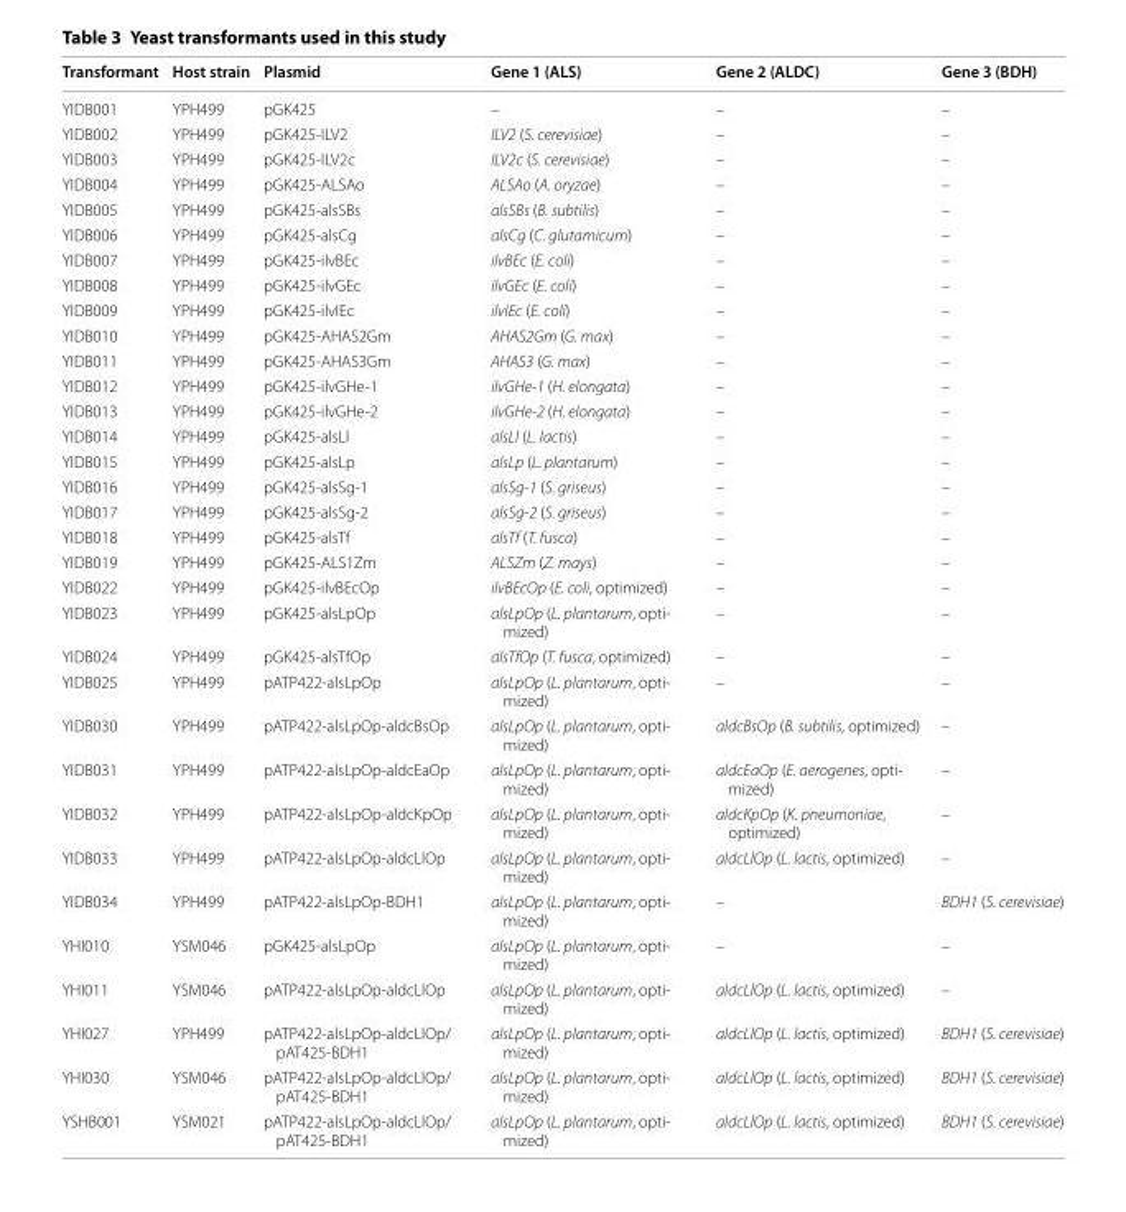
<table><thead><tr><td>Transformant</td><td>Host strain</td><td>Plasmid</td><td>Gene 1 (ALS)</td><td>Gene 2 (ALDC)</td><td>Gene 3 (BDH)</td></tr></thead><tbody><tr><td>YIDB001</td><td>YPH499</td><td>pGK425</td><td>–</td><td>–</td><td>–</td></tr><tr><td>YIDB002</td><td>YPH499</td><td>pGK425-ILV2</td><td>ILV2 (S. cerevisiae)</td><td>–</td><td>–</td></tr><tr><td>YIDB003</td><td>YPH499</td><td>pGK425-ILV2c</td><td>ILV2c (S. cerevisiae)</td><td>–</td><td>–</td></tr><tr><td>YIDB004</td><td>YPH499</td><td>pGK425-ALSAo</td><td>ALSAo (A. oryzae)</td><td>–</td><td>–</td></tr><tr><td>YIDB005</td><td>YPH499</td><td>pGK425-alsSBs</td><td>alsSBs (B. subtilis)</td><td>–</td><td>–</td></tr><tr><td>YIDB006</td><td>YPH499</td><td>pGK425-alsCg</td><td>alsCg (C. glutamicum)</td><td>–</td><td>–</td></tr><tr><td>YIDB007</td><td>YPH499</td><td>pGK425-ilvBEc</td><td>ilvBEc (E. coli)</td><td>–</td><td>–</td></tr><tr><td>YIDB008</td><td>YPH499</td><td>pGK425-ilvGEc</td><td>ilvGEc (E. coli)</td><td>–</td><td>–</td></tr><tr><td>YIDB009</td><td>YPH499</td><td>pGK425-ilvIEc</td><td>ilvIEc (E. coli)</td><td>–</td><td>–</td></tr><tr><td>YIDB010</td><td>YPH499</td><td>pGK425-AHAS2Gm</td><td>AHAS2Gm (G. max)</td><td>–</td><td>–</td></tr><tr><td>YIDB011</td><td>YPH499</td><td>pGK425-AHAS3Gm</td><td>AHAS3 (G. max)</td><td>–</td><td>–</td></tr><tr><td>YIDB012</td><td>YPH499</td><td>pGK425-ilvGHe-1</td><td>ilvGHe-1 (H. elongata)</td><td>–</td><td>–</td></tr><tr><td>YIDB013</td><td>YPH499</td><td>pGK425-ilvGHe-2</td><td>ilvGHe-2 (H. elongata)</td><td>–</td><td>–</td></tr><tr><td>YIDB014</td><td>YPH499</td><td>pGK425-alsLl</td><td>alsLl (L. lactis)</td><td>–</td><td>–</td></tr><tr><td>YIDB015</td><td>YPH499</td><td>pGK425-alsLp</td><td>alsLp (L. plantarum)</td><td>–</td><td>–</td></tr><tr><td>YIDB016</td><td>YPH499</td><td>pGK425-alsSg-1</td><td>alsSg-1 (S. griseus)</td><td>–</td><td>–</td></tr><tr><td>YIDB017</td><td>YPH499</td><td>pGK425-alsSg-2</td><td>alsSg-2 (S. griseus)</td><td>–</td><td>–</td></tr><tr><td>YIDB018</td><td>YPH499</td><td>pGK425-alsTf</td><td>alsTf (T. fusca)</td><td>–</td><td>–</td></tr><tr><td>YIDB019</td><td>YPH499</td><td>pGK425-ALS1Zm</td><td>ALSZm (Z. mays)</td><td>–</td><td>–</td></tr><tr><td>YIDB022</td><td>YPH499</td><td>pGK425-ilvBEcOp</td><td>ilvBEcOp (E. coli, optimized)</td><td>–</td><td>–</td></tr><tr><td>YIDB023</td><td>YPH499</td><td>pGK425-alsLpOp</td><td>alsLpOp (L. plantarum, opti- mized)</td><td>–</td><td>–</td></tr><tr><td>YIDB024</td><td>YPH499</td><td>pGK425-alsTfOp</td><td>alsTfOp (T. fusca, optimized)</td><td>–</td><td>–</td></tr><tr><td>YIDB025</td><td>YPH499</td><td>pATP422-alsLpOp</td><td>alsLpOp (L. plantarum, opti- mized)</td><td>–</td><td>–</td></tr><tr><td>YIDB030</td><td>YPH499</td><td>pATP422-alsLpOp-aldcBsOp</td><td>alsLpOp (L. plantarum, opti- mized)</td><td>aldcBsOp (B. subtilis, optimized)</td><td>–</td></tr><tr><td>YIDB031</td><td>YPH499</td><td>pATP422-alsLpOp-aldcEaOp</td><td>alsLpOp (L. plantarum, opti- mized)</td><td>aldcEaOp (E. aerogenes, opti- mized)</td><td>–</td></tr><tr><td>YIDB032</td><td>YPH499</td><td>pATP422-alsLpOp-aldcKpOp</td><td>alsLpOp (L. plantarum, opti- mized)</td><td>aldcKpOp (K. pneumoniae, optimized)</td><td>–</td></tr><tr><td>YIDB033</td><td>YPH499</td><td>pATP422-alsLpOp-aldcLlOp</td><td>alsLpOp (L. plantarum, opti- mized)</td><td>aldcLlOp (L. lactis, optimized)</td><td>–</td></tr><tr><td>YIDB034</td><td>YPH499</td><td>pATP422-alsLpOp-BDH1</td><td>alsLpOp (L. plantarum, opti- mized)</td><td>–</td><td>BDH1 (S. cerevisiae)</td></tr><tr><td>YHI010</td><td>YSM046</td><td>pGK425-alsLpOp</td><td>alsLpOp (L. plantarum, opti- mized)</td><td>–</td><td>–</td></tr><tr><td>YHI011</td><td>YSM046</td><td>pATP422-alsLpOp-aldcLlOp</td><td>alsLpOp (L. plantarum, opti- mized)</td><td>aldcLlOp (L. lactis, optimized)</td><td>–</td></tr><tr><td>YHI027</td><td>YPH499</td><td>pATP422-alsLpOp-aldcLlOp/ pAT425-BDH1</td><td>alsLpOp (L. plantarum, opti- mized)</td><td>aldcLlOp (L. lactis, optimized)</td><td>BDH1 (S. cerevisiae)</td></tr><tr><td>YHI030</td><td>YSM046</td><td>pATP422-alsLpOp-aldcLlOp/ pAT425-BDH1</td><td>alsLpOp (L. plantarum, opti- mized)</td><td>aldcLlOp (L. lactis, optimized)</td><td>BDH1 (S. cerevisiae)</td></tr><tr><td>YSHB001</td><td>YSM021</td><td>pATP422-alsLpOp-aldcLlOp/ pAT425-BDH1</td><td>alsLpOp (L. plantarum, opti- mized)</td><td>aldcLlOp (L. lactis, optimized)</td><td>BDH1 (S. cerevisiae)</td></tr></tbody></table>